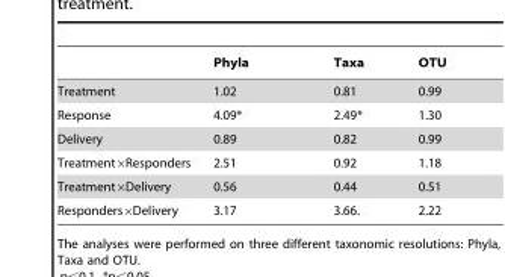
<table><thead><tr><td></td><td>Phyla</td><td>Taxa</td><td>OTU</td></tr></thead><tbody><tr><td>Treatment</td><td>1.02</td><td>0.81</td><td>0.99</td></tr><tr><td>Response</td><td>4.09*</td><td>2.49*</td><td>1.30</td></tr><tr><td>Delivery</td><td>0.89</td><td>0.82</td><td>0.99</td></tr><tr><td>Treatment×Responders</td><td>2.51</td><td>0.92</td><td>1.18</td></tr><tr><td>Treatment×Delivery</td><td>0.56</td><td>0.44</td><td>0.51</td></tr><tr><td>Responders×Delivery</td><td>3.17</td><td>3.66.</td><td>2.22</td></tr></tbody></table>